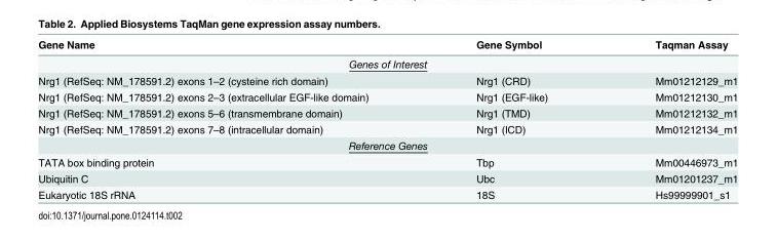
<table><thead><tr><td>Gene Name</td><td>Gene Symbol</td><td>Taqman Assay</td></tr></thead><tbody><tr><td colspan="3">Genes of Interest</td></tr><tr><td>Nrg1 (RefSeq: NM_178591.2) exons 1–2 (cysteine rich domain)</td><td>Nrg1 (CRD)</td><td>Mm01212129_m1</td></tr><tr><td>Nrg1 (RefSeq: NM_178591.2) exons 2–3 (extracellular EGF-like domain)</td><td>Nrg1 (EGF-like)</td><td>Mm01212130_m1</td></tr><tr><td>Nrg1 (RefSeq: NM_178591.2) exons 5–6 (transmembrane domain)</td><td>Nrg1 (TMD)</td><td>Mm01212132_m1</td></tr><tr><td>Nrg1 (RefSeq: NM_178591.2) exons 7–8 (intracellular domain)</td><td>Nrg1 (ICD)</td><td>Mm01212134_m1</td></tr><tr><td colspan="3">Reference Genes</td></tr><tr><td>TATA box binding protein</td><td>Tbp</td><td>Mm00446973_m1</td></tr><tr><td>Ubiquitin C</td><td>Ubc</td><td>Mm01201237_m1</td></tr><tr><td>Eukaryotic 18S rRNA</td><td>18S</td><td>Hs99999901_s1</td></tr></tbody></table>